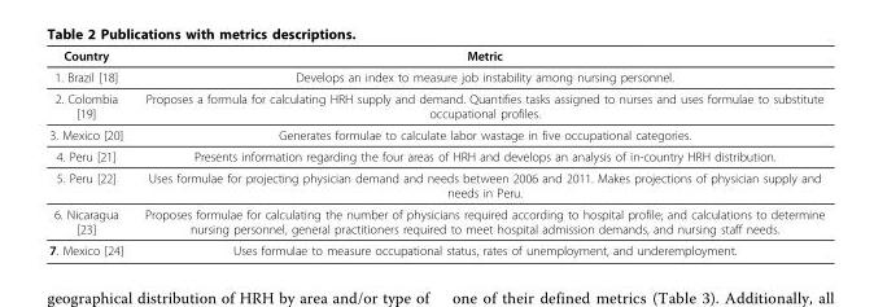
<table><thead><tr><td>Country</td><td>Metric</td></tr></thead><tbody><tr><td>1. Brazil [18]</td><td>Develops an index to measure job instability among nursing personnel.</td></tr><tr><td>2. Colombia [19]</td><td>Proposes a formula for calculating HRH supply and demand. Quantifies tasks assigned to nurses and uses formulae to substitute occupational profiles.</td></tr><tr><td>3. Mexico [20]</td><td>Generates formulae to calculate labor wastage in five occupational categories.</td></tr><tr><td>4. Peru [21]</td><td>Presents information regarding the four areas of HRH and develops an analysis of in-country HRH distribution.</td></tr><tr><td>5. Peru [22]</td><td>Uses formulae for projecting physician demand and needs between 2006 and 2011. Makes projections of physician supply and needs in Peru.</td></tr><tr><td>6. Nicaragua [23]</td><td>Proposes formulae for calculating the number of physicians required according to hospital profile; and calculations to determine nursing personnel, general practitioners required to meet hospital admission demands, and nursing staff needs.</td></tr><tr><td>7. Mexico [24]</td><td>Uses formulae to measure occupational status, rates of unemployment, and underemployment.</td></tr></tbody></table>